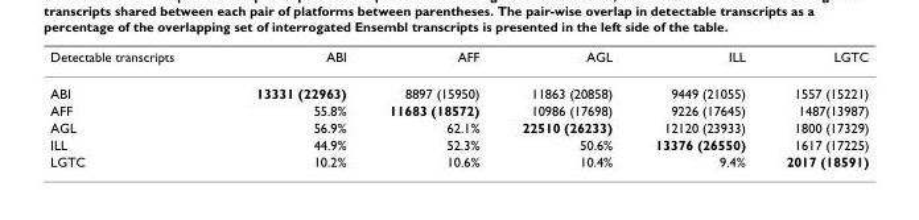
<table><thead><tr><td>Detectable transcripts</td><td>ABI</td><td>AFF</td><td>AGL</td><td>ILL</td><td>LGTC</td></tr></thead><tbody><tr><td>ABI</td><td>13331 (22963)</td><td>8897 (15950)</td><td>11863 (20858)</td><td>9449 (21055)</td><td>1557 (15221)</td></tr><tr><td>AFF</td><td>55.8%</td><td>11683 (18572)</td><td>10986 (17698)</td><td>9226 (17645)</td><td>1487(13987)</td></tr><tr><td>AGL</td><td>56.9%</td><td>62.1%</td><td>22510 (26233)</td><td>12120 (23933)</td><td>1800 (17329)</td></tr><tr><td>ILL</td><td>44.9%</td><td>52.3%</td><td>50.6%</td><td>13376 (26550)</td><td>1617 (17225)</td></tr><tr><td>LGTC</td><td>10.2%</td><td>10.6%</td><td>10.4%</td><td>9.4%</td><td>2017 (18591)</td></tr></tbody></table>